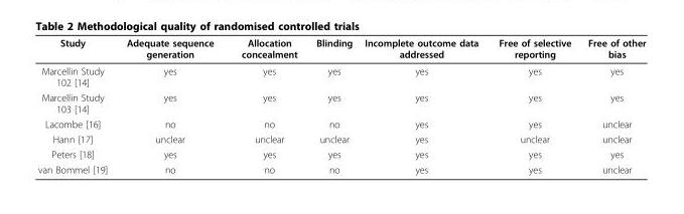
<table><thead><tr><td>Study</td><td>Adequate sequence generation</td><td>Allocation concealment</td><td>Blinding</td><td>Incomplete outcome data addressed</td><td>Free of selective reporting</td><td>Free of other bias</td></tr></thead><tbody><tr><td>Marcellin Study 102 [14]</td><td>yes</td><td>yes</td><td>yes</td><td>yes</td><td>yes</td><td>yes</td></tr><tr><td>Marcellin Study 103 [14]</td><td>yes</td><td>yes</td><td>yes</td><td>yes</td><td>yes</td><td>yes</td></tr><tr><td>Lacombe [16]</td><td>no</td><td>no</td><td>no</td><td>yes</td><td>yes</td><td>unclear</td></tr><tr><td>Hann [17]</td><td>unclear</td><td>unclear</td><td>unclear</td><td>yes</td><td>unclear</td><td>unclear</td></tr><tr><td>Peters [18]</td><td>yes</td><td>yes</td><td>yes</td><td>yes</td><td>yes</td><td>yes</td></tr><tr><td>van Bommel [19]</td><td>no</td><td>no</td><td>no</td><td>yes</td><td>yes</td><td>unclear</td></tr></tbody></table>